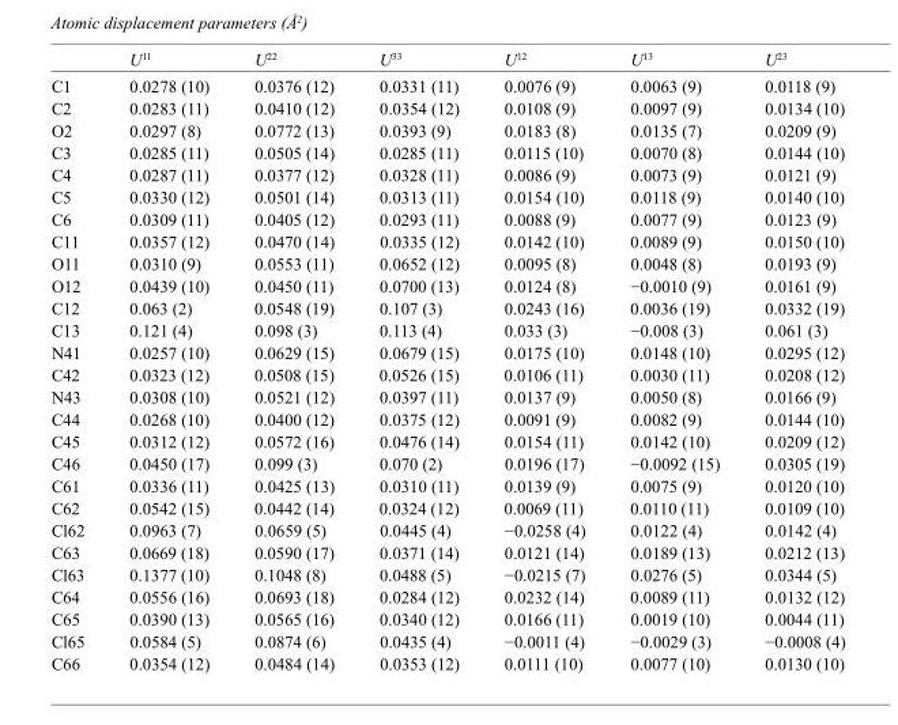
<table><thead><tr><td></td><td>U<sup>11</sup></td><td>U<sup>22</sup></td><td>U<sup>33</sup></td><td>U<sup>12</sup></td><td>U<sup>13</sup></td><td>U<sup>23</sup></td></tr></thead><tbody><tr><td>C1</td><td>0.0278 (10)</td><td>0.0376 (12)</td><td>0.0331 (11)</td><td>0.0076 (9)</td><td>0.0063 (9)</td><td>0.0118 (9)</td></tr><tr><td>C2</td><td>0.0283 (11)</td><td>0.0410 (12)</td><td>0.0354 (12)</td><td>0.0108 (9)</td><td>0.0097 (9)</td><td>0.0134 (10)</td></tr><tr><td>O2</td><td>0.0297 (8)</td><td>0.0772 (13)</td><td>0.0393 (9)</td><td>0.0183 (8)</td><td>0.0135 (7)</td><td>0.0209 (9)</td></tr><tr><td>C3</td><td>0.0285 (11)</td><td>0.0505 (14)</td><td>0.0285 (11)</td><td>0.0115 (10)</td><td>0.0070 (8)</td><td>0.0144 (10)</td></tr><tr><td>C4</td><td>0.0287 (11)</td><td>0.0377 (12)</td><td>0.0328 (11)</td><td>0.0086 (9)</td><td>0.0073 (9)</td><td>0.0121 (9)</td></tr><tr><td>C5</td><td>0.0330 (12)</td><td>0.0501 (14)</td><td>0.0313 (11)</td><td>0.0154 (10)</td><td>0.0118 (9)</td><td>0.0140 (10)</td></tr><tr><td>C6</td><td>0.0309 (11)</td><td>0.0405 (12)</td><td>0.0293 (11)</td><td>0.0088 (9)</td><td>0.0077 (9)</td><td>0.0123 (9)</td></tr><tr><td>C11</td><td>0.0357 (12)</td><td>0.0470 (14)</td><td>0.0335 (12)</td><td>0.0142 (10)</td><td>0.0089 (9)</td><td>0.0150 (10)</td></tr><tr><td>O11</td><td>0.0310 (9)</td><td>0.0553 (11)</td><td>0.0652 (12)</td><td>0.0095 (8)</td><td>0.0048 (8)</td><td>0.0193 (9)</td></tr><tr><td>O12</td><td>0.0439 (10)</td><td>0.0450 (11)</td><td>0.0700 (13)</td><td>0.0124 (8)</td><td>−0.0010 (9)</td><td>0.0161 (9)</td></tr><tr><td>C12</td><td>0.063 (2)</td><td>0.0548 (19)</td><td>0.107 (3)</td><td>0.0243 (16)</td><td>0.0036 (19)</td><td>0.0332 (19)</td></tr><tr><td>C13</td><td>0.121 (4)</td><td>0.098 (3)</td><td>0.113 (4)</td><td>0.033 (3)</td><td>−0.008 (3)</td><td>0.061 (3)</td></tr><tr><td>N41</td><td>0.0257 (10)</td><td>0.0629 (15)</td><td>0.0679 (15)</td><td>0.0175 (10)</td><td>0.0148 (10)</td><td>0.0295 (12)</td></tr><tr><td>C42</td><td>0.0323 (12)</td><td>0.0508 (15)</td><td>0.0526 (15)</td><td>0.0106 (11)</td><td>0.0030 (11)</td><td>0.0208 (12)</td></tr><tr><td>N43</td><td>0.0308 (10)</td><td>0.0521 (12)</td><td>0.0397 (11)</td><td>0.0137 (9)</td><td>0.0050 (8)</td><td>0.0166 (9)</td></tr><tr><td>C44</td><td>0.0268 (10)</td><td>0.0400 (12)</td><td>0.0375 (12)</td><td>0.0091 (9)</td><td>0.0082 (9)</td><td>0.0144 (10)</td></tr><tr><td>C45</td><td>0.0312 (12)</td><td>0.0572 (16)</td><td>0.0476 (14)</td><td>0.0154 (11)</td><td>0.0142 (10)</td><td>0.0209 (12)</td></tr><tr><td>C46</td><td>0.0450 (17)</td><td>0.099 (3)</td><td>0.070 (2)</td><td>0.0196 (17)</td><td>−0.0092 (15)</td><td>0.0305 (19)</td></tr><tr><td>C61</td><td>0.0336 (11)</td><td>0.0425 (13)</td><td>0.0310 (11)</td><td>0.0139 (9)</td><td>0.0075 (9)</td><td>0.0120 (10)</td></tr><tr><td>C62</td><td>0.0542 (15)</td><td>0.0442 (14)</td><td>0.0324 (12)</td><td>0.0069 (11)</td><td>0.0110 (11)</td><td>0.0109 (10)</td></tr><tr><td>Cl62</td><td>0.0963 (7)</td><td>0.0659 (5)</td><td>0.0445 (4)</td><td>−0.0258 (4)</td><td>0.0122 (4)</td><td>0.0142 (4)</td></tr><tr><td>C63</td><td>0.0669 (18)</td><td>0.0590 (17)</td><td>0.0371 (14)</td><td>0.0121 (14)</td><td>0.0189 (13)</td><td>0.0212 (13)</td></tr><tr><td>Cl63</td><td>0.1377 (10)</td><td>0.1048 (8)</td><td>0.0488 (5)</td><td>−0.0215 (7)</td><td>0.0276 (5)</td><td>0.0344 (5)</td></tr><tr><td>C64</td><td>0.0556 (16)</td><td>0.0693 (18)</td><td>0.0284 (12)</td><td>0.0232 (14)</td><td>0.0089 (11)</td><td>0.0132 (12)</td></tr><tr><td>C65</td><td>0.0390 (13)</td><td>0.0565 (16)</td><td>0.0340 (12)</td><td>0.0166 (11)</td><td>0.0019 (10)</td><td>0.0044 (11)</td></tr><tr><td>Cl65</td><td>0.0584 (5)</td><td>0.0874 (6)</td><td>0.0435 (4)</td><td>−0.0011 (4)</td><td>−0.0029 (3)</td><td>−0.0008 (4)</td></tr><tr><td>C66</td><td>0.0354 (12)</td><td>0.0484 (14)</td><td>0.0353 (12)</td><td>0.0111 (10)</td><td>0.0077 (10)</td><td>0.0130 (10)</td></tr></tbody></table>